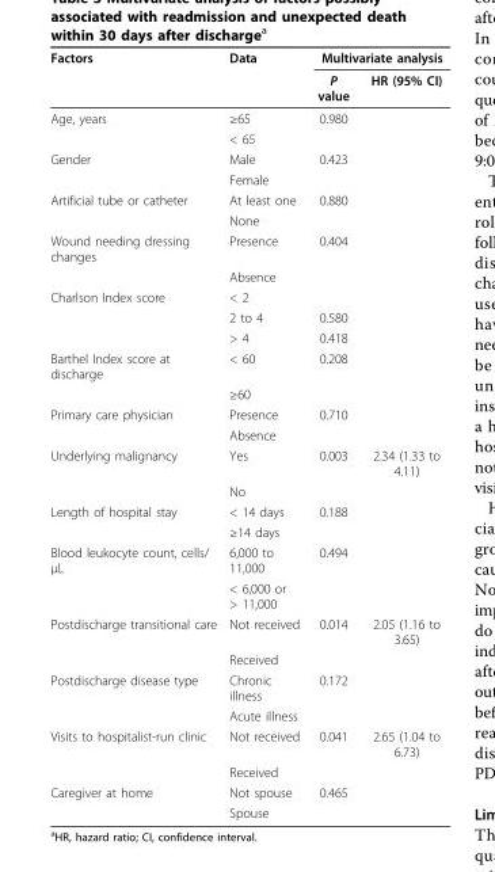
<table><thead><tr><td rowspan="2">Factors</td><td rowspan="2">Data</td><td colspan="2">Multivariate analysis</td></tr><tr><td>P value</td><td>HR (95% CI)</td></tr></thead><tbody><tr><td rowspan="2">Age, years</td><td>≥65</td><td>0.980</td><td></td></tr><tr><td>&lt; 65</td><td></td><td></td></tr><tr><td rowspan="2">Gender</td><td>Male</td><td>0.423</td><td></td></tr><tr><td>Female</td><td></td><td></td></tr><tr><td rowspan="2">Artificial tube or catheter</td><td>At least one</td><td>0.880</td><td></td></tr><tr><td>None</td><td></td><td></td></tr><tr><td rowspan="2">Wound needing dressing changes</td><td>Presence</td><td>0.404</td><td></td></tr><tr><td>Absence</td><td></td><td></td></tr><tr><td rowspan="3">Charlson Index score</td><td>&lt; 2</td><td></td><td></td></tr><tr><td>2 to 4</td><td>0.580</td><td></td></tr><tr><td>&gt; 4</td><td>0.418</td><td></td></tr><tr><td rowspan="2">Barthel Index score at discharge</td><td>&lt; 60</td><td>0.208</td><td></td></tr><tr><td>≥60</td><td></td><td></td></tr><tr><td rowspan="2">Primary care physician</td><td>Presence</td><td>0.710</td><td></td></tr><tr><td>Absence</td><td></td><td></td></tr><tr><td rowspan="2">Underlying malignancy</td><td>Yes</td><td>0.003</td><td>2.34 (1.33 to 4.11)</td></tr><tr><td>No</td><td></td><td></td></tr><tr><td rowspan="2">Length of hospital stay</td><td>&lt; 14 days</td><td>0.188</td><td></td></tr><tr><td>≥14 days</td><td></td><td></td></tr><tr><td rowspan="2">Blood leukocyte count, cells/ μL</td><td>6,000 to 11,000</td><td>0.494</td><td></td></tr><tr><td>&lt; 6,000 or &gt; 11,000</td><td></td><td></td></tr><tr><td rowspan="2">Postdischarge transitional care</td><td>Not received</td><td>0.014</td><td>2.05 (1.16 to 3.65)</td></tr><tr><td>Received</td><td></td><td></td></tr><tr><td rowspan="2">Postdischarge disease type</td><td>Chronic illness</td><td>0.172</td><td></td></tr><tr><td>Acute illness</td><td></td><td></td></tr><tr><td rowspan="2">Visits to hospitalist-run clinic</td><td>Not received</td><td>0.041</td><td>2.65 (1.04 to 6.73)</td></tr><tr><td>Received</td><td></td><td></td></tr><tr><td rowspan="2">Caregiver at home</td><td>Not spouse</td><td>0.465</td><td></td></tr><tr><td>Spouse</td><td></td><td></td></tr></tbody></table>